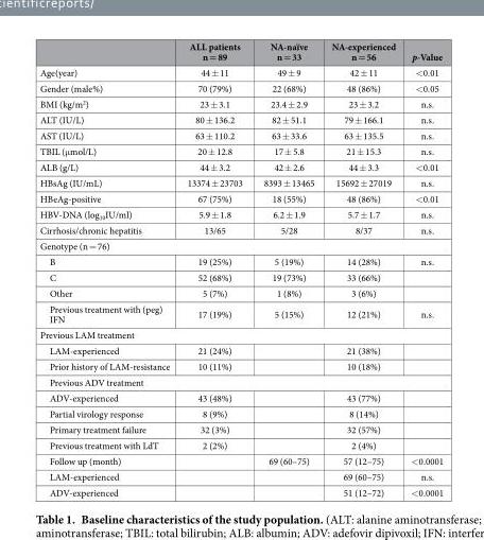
<table><thead><tr><td></td><td>ALL patients n = 89</td><td>NA-naïve n = 33</td><td>NA-experienced n = 56</td><td>p-Value</td></tr></thead><tbody><tr><td>Age(year)</td><td>44 ± 11</td><td>49 ± 9</td><td>42 ± 11</td><td>&lt;0.01</td></tr><tr><td>Gender (male%)</td><td>70 (79%)</td><td>22 (68%)</td><td>48 (86%)</td><td>&lt;0.05</td></tr><tr><td>BMI (kg/m<sup>2</sup>)</td><td>23 ± 3.1</td><td>23.4 ± 2.9</td><td>23 ± 3.2</td><td>n.s.</td></tr><tr><td>ALT (IU/L)</td><td>80 ± 136.2</td><td>82 ± 51.1</td><td>79 ± 166.1</td><td>n.s.</td></tr><tr><td>AST (IU/L)</td><td>63 ± 110.2</td><td>63 ± 33.6</td><td>63 ± 135.5</td><td>n.s.</td></tr><tr><td>TBIL (μmol/L)</td><td>20 ± 12.8</td><td>17 ± 5.8</td><td>21 ± 15.3</td><td>n.s.</td></tr><tr><td>ALB (g/L)</td><td>44 ± 3.2</td><td>42 ± 2.6</td><td>44 ± 3.3</td><td>&lt;0.01</td></tr><tr><td>HBsAg (IU/mL)</td><td>13374 ± 23703</td><td>8393 ± 13465</td><td>15692 ± 27019</td><td>n.s.</td></tr><tr><td>HBeAg-positive</td><td>67 (75%)</td><td>18 (55%)</td><td>48 (86%)</td><td>&lt;0.01</td></tr><tr><td>HBV-DNA (log<sub>10</sub>IU/ml)</td><td>5.9 ± 1.8</td><td>6.2 ± 1.9</td><td>5.7 ± 1.7</td><td>n.s.</td></tr><tr><td>Cirrhosis/chronic hepatitis</td><td>13/65</td><td>5/28</td><td>8/37</td><td>n.s.</td></tr><tr><td colspan="5">Genotype (n = 76)</td></tr><tr><td>B</td><td>19 (25%)</td><td>5 (19%)</td><td>14 (28%)</td><td>n.s.</td></tr><tr><td>C</td><td>52 (68%)</td><td>19 (73%)</td><td>33 (66%)</td><td></td></tr><tr><td>Other</td><td>5 (7%)</td><td>1 (8%)</td><td>3 (6%)</td><td></td></tr><tr><td>Previous treatment with (peg) IFN</td><td>17 (19%)</td><td>5 (15%)</td><td>12 (21%)</td><td>n.s.</td></tr><tr><td colspan="5">Previous LAM treatment</td></tr><tr><td>LAM-experienced</td><td>21 (24%)</td><td></td><td>21 (38%)</td><td></td></tr><tr><td>Prior history of LAM-resistance</td><td>10 (11%)</td><td></td><td>10 (18%)</td><td></td></tr><tr><td colspan="5">Previous ADV treatment</td></tr><tr><td>ADV-experienced</td><td>43 (48%)</td><td></td><td>43 (77%)</td><td></td></tr><tr><td>Partial virology response</td><td>8 (9%)</td><td></td><td>8 (14%)</td><td></td></tr><tr><td>Primary treatment failure</td><td>32 (3%)</td><td></td><td>32 (57%)</td><td></td></tr><tr><td>Previous treatment with LdT</td><td>2 (2%)</td><td></td><td>2 (4%)</td><td></td></tr><tr><td>Follow up (month)</td><td></td><td>69 (60–75)</td><td>57 (12–75)</td><td>&lt;0.0001</td></tr><tr><td>LAM-experienced</td><td></td><td></td><td>69 (60–75)</td><td>n.s.</td></tr><tr><td>ADV-experienced</td><td></td><td></td><td>51 (12–72)</td><td>&lt;0.0001</td></tr></tbody></table>